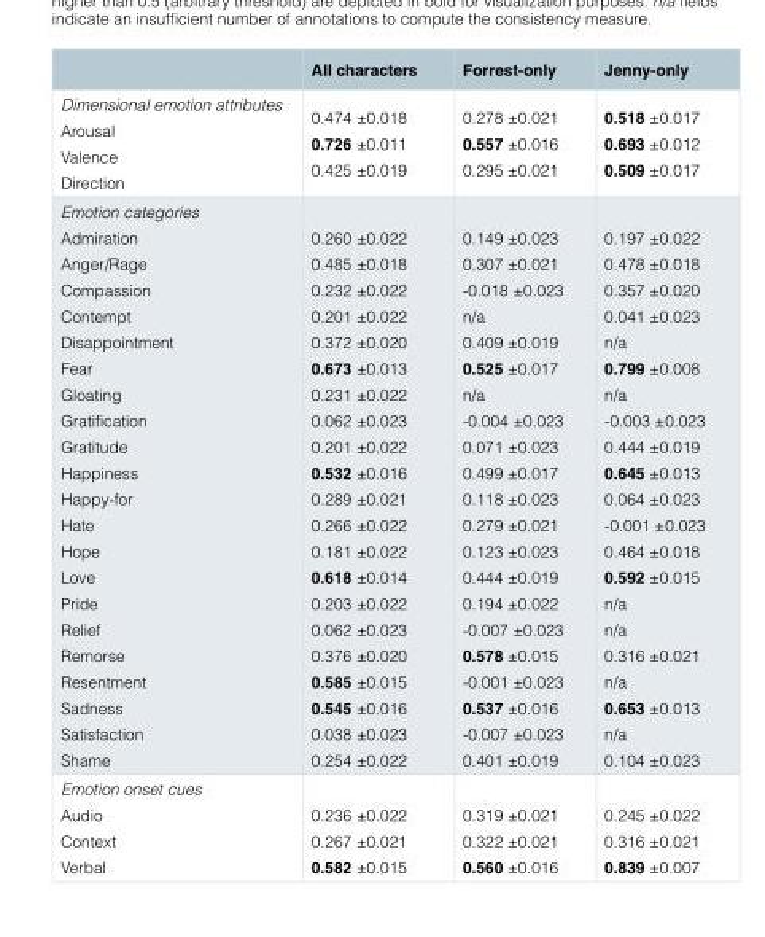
<table><thead><tr><td></td><td>All characters</td><td>Forrest-only</td><td>Jenny-only</td></tr></thead><tbody><tr><td>Dimensional emotion attributes Arousal Valence Direction</td><td>0.474 ±0.018 0.726 ±0.011 0.425 ±0.019</td><td>0.278 ±0.021 0.557 ±0.016 0.295 ±0.021</td><td>0.518 ±0.017 0.693 ±0.012 0.509 ±0.017</td></tr><tr><td>Emotion categories Admiration Anger/Rage Compassion Contempt Disappointment Fear Gloating Gratification Gratitude Happiness Happy-for Hate Hope Love Pride Relief Remorse Resentment Sadness Satisfaction Shame</td><td>0.260 ±0.022 0.485 ±0.018 0.232 ±0.022 0.201 ±0.022 0.372 ±0.020 0.673 ±0.013 0.231 ±0.022 0.062 ±0.023 0.201 ±0.022 0.532 ±0.016 0.289 ±0.021 0.266 ±0.022 0.181 ±0.022 0.618 ±0.014 0.203 ±0.022 0.062 ±0.023 0.376 ±0.020 0.585 ±0.015 0.545 ±0.016 0.038 ±0.023 0.254 ±0.022</td><td>0.149 ±0.023 0.307 ±0.021 -0.018 ±0.023 n/a 0.409 ±0.019 0.525 ±0.017 n/a -0.004 ±0.023 0.071 ±0.023 0.499 ±0.017 0.118 ±0.023 0.279 ±0.021 0.123 ±0.023 0.444 ±0.019 0.194 ±0.022 -0.007 ±0.023 0.578 ±0.015 -0.001 ±0.023 0.537 ±0.016 -0.007 ±0.023 0.401 ±0.019</td><td>0.197 ±0.022 0.478 ±0.018 0.357 ±0.020 0.041 ±0.023 n/a 0.799 ±0.008 n/a -0.003 ±0.023 0.444 ±0.019 0.645 ±0.013 0.064 ±0.023 -0.001 ±0.023 0.464 ±0.018 0.592 ±0.015 n/a n/a 0.316 ±0.021 n/a 0.653 ±0.013 n/a 0.104 ±0.023</td></tr><tr><td>Emotion onset cues Audio Context Verbal</td><td>0.236 ±0.022 0.267 ±0.021 0.582 ±0.015</td><td>0.319 ±0.021 0.322 ±0.021 0.560 ±0.016</td><td>0.245 ±0.022 0.316 ±0.021 0.839 ±0.007</td></tr></tbody></table>